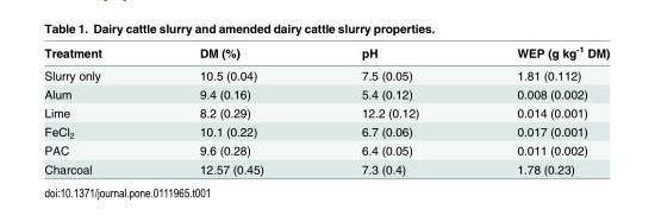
<table><thead><tr><td>Treatment</td><td>DM (%)</td><td>pH</td><td>WEP (g kg<sup>-1</sup> DM)</td></tr></thead><tbody><tr><td>Slurry only</td><td>10.5 (0.04)</td><td>7.5 (0.05)</td><td>1.81 (0.112)</td></tr><tr><td>Alum</td><td>9.4 (0.16)</td><td>5.4 (0.12)</td><td>0.008 (0.002)</td></tr><tr><td>Lime</td><td>8.2 (0.29)</td><td>12.2 (0.12)</td><td>0.014 (0.001)</td></tr><tr><td>FeCl<sub>2</sub></td><td>10.1 (0.22)</td><td>6.7 (0.06)</td><td>0.017 (0.001)</td></tr><tr><td>PAC</td><td>9.6 (0.28)</td><td>6.4 (0.05)</td><td>0.011 (0.002)</td></tr><tr><td>Charcoal</td><td>12.57 (0.45)</td><td>7.3 (0.4)</td><td>1.78 (0.23)</td></tr></tbody></table>